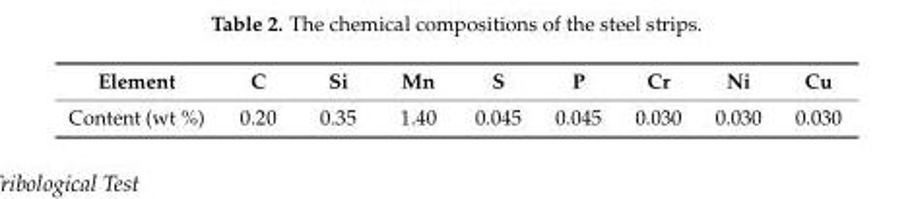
<table><thead><tr><td>Element</td><td>C</td><td>Si</td><td>Mn</td><td>S</td><td>P</td><td>Cr</td><td>Ni</td><td>Cu</td></tr></thead><tbody><tr><td>Content (wt %)</td><td>0.20</td><td>0.35</td><td>1.40</td><td>0.045</td><td>0.045</td><td>0.030</td><td>0.030</td><td>0.030</td></tr></tbody></table>